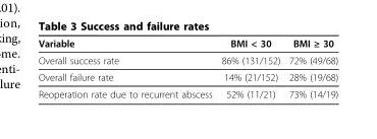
<table><thead><tr><td>Variable</td><td>BMI &lt; 30</td><td>BMI ≥ 30</td></tr></thead><tbody><tr><td>Overall success rate</td><td>86% (131/152)</td><td>72% (49/68)</td></tr><tr><td>Overall failure rate</td><td>14% (21/152)</td><td>28% (19/68)</td></tr><tr><td>Reoperation rate due to recurrent abscess</td><td>52% (11/21)</td><td>73% (14/19)</td></tr></tbody></table>